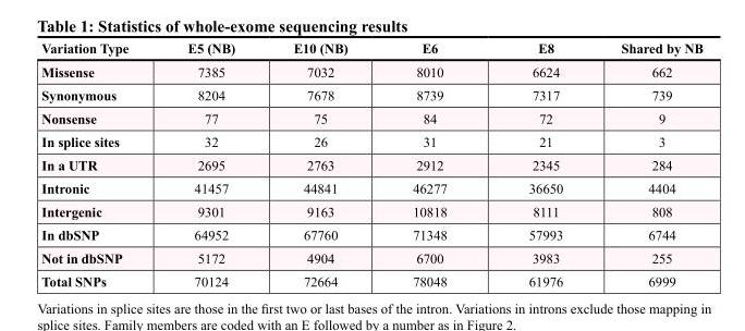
<table><thead><tr><td>Variation Type</td><td>E5 (NB)</td><td>E10 (NB)</td><td>E6</td><td>E8</td><td>Shared by NB</td></tr></thead><tbody><tr><td>Missense</td><td>7385</td><td>7032</td><td>8010</td><td>6624</td><td>662</td></tr><tr><td>Synonymous</td><td>8204</td><td>7678</td><td>8739</td><td>7317</td><td>739</td></tr><tr><td>Nonsense</td><td>77</td><td>75</td><td>84</td><td>72</td><td>9</td></tr><tr><td>In splice sites</td><td>32</td><td>26</td><td>31</td><td>21</td><td>3</td></tr><tr><td>In a UTR</td><td>2695</td><td>2763</td><td>2912</td><td>2345</td><td>284</td></tr><tr><td>Intronic</td><td>41457</td><td>44841</td><td>46277</td><td>36650</td><td>4404</td></tr><tr><td>Intergenic</td><td>9301</td><td>9163</td><td>10818</td><td>8111</td><td>808</td></tr><tr><td>In dbSNP</td><td>64952</td><td>67760</td><td>71348</td><td>57993</td><td>6744</td></tr><tr><td>Not in dbSNP</td><td>5172</td><td>4904</td><td>6700</td><td>3983</td><td>255</td></tr><tr><td>Total SNPs</td><td>70124</td><td>72664</td><td>78048</td><td>61976</td><td>6999</td></tr></tbody></table>